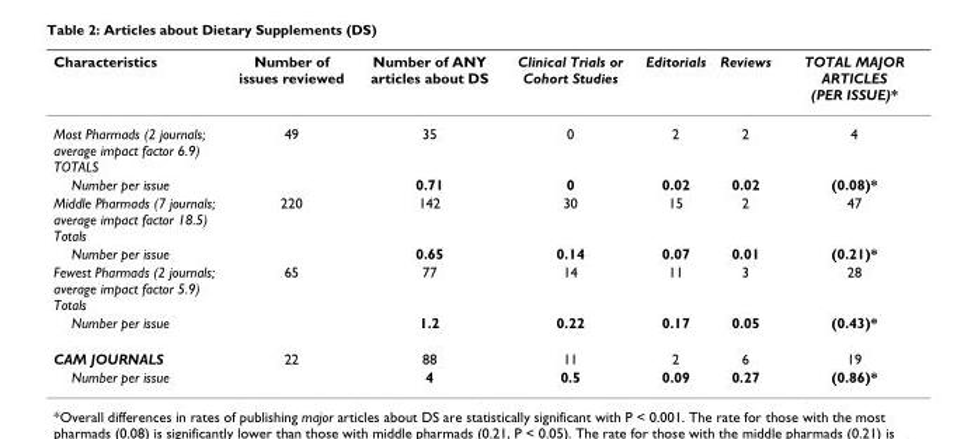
<table><thead><tr><td>Characteristics</td><td>Number of issues reviewed</td><td>Number of ANY articles about DS</td><td>Clinical Trials or Cohort Studies</td><td>Editorials</td><td>Reviews</td><td>TOTAL MAJOR ARTICLES (PER ISSUE)*</td></tr></thead><tbody><tr><td>Most Pharmads (2 journals; average impact factor 6.9) TOTALS</td><td>49</td><td>35</td><td>0</td><td>2</td><td>2</td><td>4</td></tr><tr><td>Number per issue</td><td></td><td>0.71</td><td>0</td><td>0.02</td><td>0.02</td><td>(0.08)*</td></tr><tr><td>Middle Pharmads (7 journals; average impact factor 18.5) Totals</td><td>220</td><td>142</td><td>30</td><td>15</td><td>2</td><td>47</td></tr><tr><td>Number per issue</td><td></td><td>0.65</td><td>0.14</td><td>0.07</td><td>0.01</td><td>(0.21)*</td></tr><tr><td>Fewest Pharmads (2 journals; average impact factor 5.9) Totals</td><td>65</td><td>77</td><td>14</td><td>11</td><td>3</td><td>28</td></tr><tr><td>Number per issue</td><td></td><td>1.2</td><td>0.22</td><td>0.17</td><td>0.05</td><td>(0.43)*</td></tr><tr><td>CAM JOURNALS</td><td>22</td><td>88</td><td>11</td><td>2</td><td>6</td><td>19</td></tr><tr><td>Number per issue</td><td></td><td>4</td><td>0.5</td><td>0.09</td><td>0.27</td><td>(0.86)*</td></tr></tbody></table>